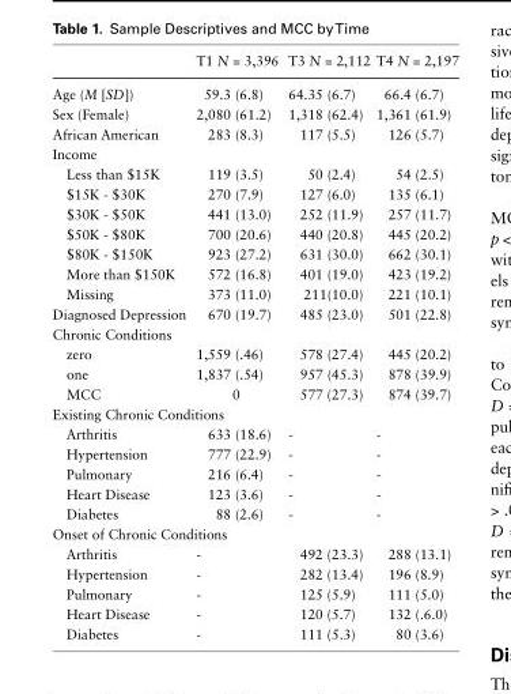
<table><thead><tr><td></td><td>T1 N = 3,396</td><td>T3 N = 2,112</td><td>T4 N = 2,197</td></tr></thead><tbody><tr><td>Age (M [SD])</td><td>59.3 (6.8)</td><td>64.35 (6.7)</td><td>66.4 (6.7)</td></tr><tr><td>Sex (Female)</td><td>2,080 (61.2)</td><td>1,318 (62.4)</td><td>1,361 (61.9)</td></tr><tr><td>African American</td><td>283 (8.3)</td><td>117 (5.5)</td><td>126 (5.7)</td></tr><tr><td colspan="4">Income</td></tr><tr><td>Less than $15K</td><td>119 (3.5)</td><td>50 (2.4)</td><td>54 (2.5)</td></tr><tr><td>$15K - $30K</td><td>270 (7.9)</td><td>127 (6.0)</td><td>135 (6.1)</td></tr><tr><td>$30K - $50K</td><td>441 (13.0)</td><td>252 (11.9)</td><td>257 (11.7)</td></tr><tr><td>$50K - $80K</td><td>700 (20.6)</td><td>440 (20.8)</td><td>445 (20.2)</td></tr><tr><td>$80K - $150K</td><td>923 (27.2)</td><td>631 (30.0)</td><td>662 (30.1)</td></tr><tr><td>More than $150K</td><td>572 (16.8)</td><td>401 (19.0)</td><td>423 (19.2)</td></tr><tr><td>Missing</td><td>373 (11.0)</td><td>211(10.0)</td><td>221 (10.1)</td></tr><tr><td>Diagnosed Depression</td><td>670 (19.7)</td><td>485 (23.0)</td><td>501 (22.8)</td></tr><tr><td colspan="4">Chronic Conditions</td></tr><tr><td>zero</td><td>1,559 (.46)</td><td>578 (27.4)</td><td>445 (20.2)</td></tr><tr><td>one</td><td>1,837 (.54)</td><td>957 (45.3)</td><td>878 (39.9)</td></tr><tr><td>MCC</td><td>0</td><td>577 (27.3)</td><td>874 (39.7)</td></tr><tr><td colspan="4">Existing Chronic Conditions</td></tr><tr><td>Arthritis</td><td>633 (18.6)</td><td>-</td><td>-</td></tr><tr><td>Hypertension</td><td>777 (22.9)</td><td>-</td><td>-</td></tr><tr><td>Pulmonary</td><td>216 (6.4)</td><td>-</td><td>-</td></tr><tr><td>Heart Disease</td><td>123 (3.6)</td><td>-</td><td>-</td></tr><tr><td>Diabetes</td><td>88 (2.6)</td><td>-</td><td>-</td></tr><tr><td colspan="4">Onset of Chronic Conditions</td></tr><tr><td>Arthritis</td><td>-</td><td>492 (23.3)</td><td>288 (13.1)</td></tr><tr><td>Hypertension</td><td>-</td><td>282 (13.4)</td><td>196 (8.9)</td></tr><tr><td>Pulmonary</td><td>-</td><td>125 (5.9)</td><td>111 (5.0)</td></tr><tr><td>Heart Disease</td><td>-</td><td>120 (5.7)</td><td>132 (.6.0)</td></tr><tr><td>Diabetes</td><td>-</td><td>111 (5.3)</td><td>80 (3.6)</td></tr></tbody></table>